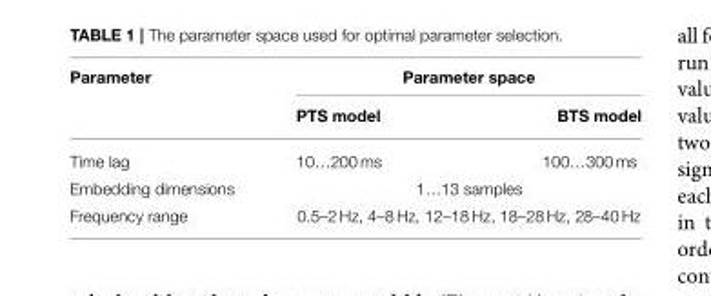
<table><thead><tr><td rowspan="2">Parameter</td><td colspan="2">Parameter space</td></tr><tr><td>PTS model</td><td>BTS model</td></tr></thead><tbody><tr><td>Time lag</td><td>10…200 ms</td><td>100…300 ms</td></tr><tr><td>Embedding dimensions</td><td colspan="2">1…13 samples</td></tr><tr><td>Frequency range</td><td colspan="2">0.5–2 Hz, 4–8 Hz, 12–18 Hz, 18–28 Hz, 28–40 Hz</td></tr></tbody></table>